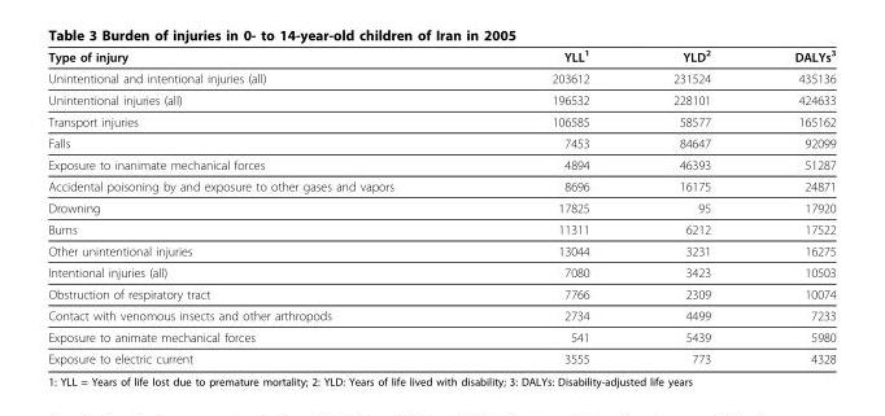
<table><thead><tr><td>Type of injury</td><td>YLL<sup>1</sup></td><td>YLD<sup>2</sup></td><td>DALYs<sup>3</sup></td></tr></thead><tbody><tr><td>Unintentional and intentional injuries (all)</td><td>203612</td><td>231524</td><td>435136</td></tr><tr><td>Unintentional injuries (all)</td><td>196532</td><td>228101</td><td>424633</td></tr><tr><td>Transport injuries</td><td>106585</td><td>58577</td><td>165162</td></tr><tr><td>Falls</td><td>7453</td><td>84647</td><td>92099</td></tr><tr><td>Exposure to inanimate mechanical forces</td><td>4894</td><td>46393</td><td>51287</td></tr><tr><td>Accidental poisoning by and exposure to other gases and vapors</td><td>8696</td><td>16175</td><td>24871</td></tr><tr><td>Drowning</td><td>17825</td><td>95</td><td>17920</td></tr><tr><td>Burns</td><td>11311</td><td>6212</td><td>17522</td></tr><tr><td>Other unintentional injuries</td><td>13044</td><td>3231</td><td>16275</td></tr><tr><td>Intentional injuries (all)</td><td>7080</td><td>3423</td><td>10503</td></tr><tr><td>Obstruction of respiratory tract</td><td>7766</td><td>2309</td><td>10074</td></tr><tr><td>Contact with venomous insects and other arthropods</td><td>2734</td><td>4499</td><td>7233</td></tr><tr><td>Exposure to animate mechanical forces</td><td>541</td><td>5439</td><td>5980</td></tr><tr><td>Exposure to electric current</td><td>3555</td><td>773</td><td>4328</td></tr></tbody></table>